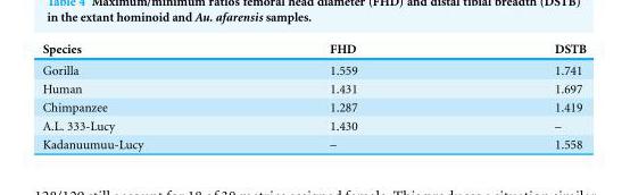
<table><thead><tr><td>Species</td><td>FHD</td><td>DSTB</td></tr></thead><tbody><tr><td>Gorilla</td><td>1.559</td><td>1.741</td></tr><tr><td>Human</td><td>1.431</td><td>1.697</td></tr><tr><td>Chimpanzee</td><td>1.287</td><td>1.419</td></tr><tr><td>A.L. 333-Lucy</td><td>1.430</td><td>–</td></tr><tr><td>Kadanuumuu-Lucy</td><td>–</td><td>1.558</td></tr></tbody></table>